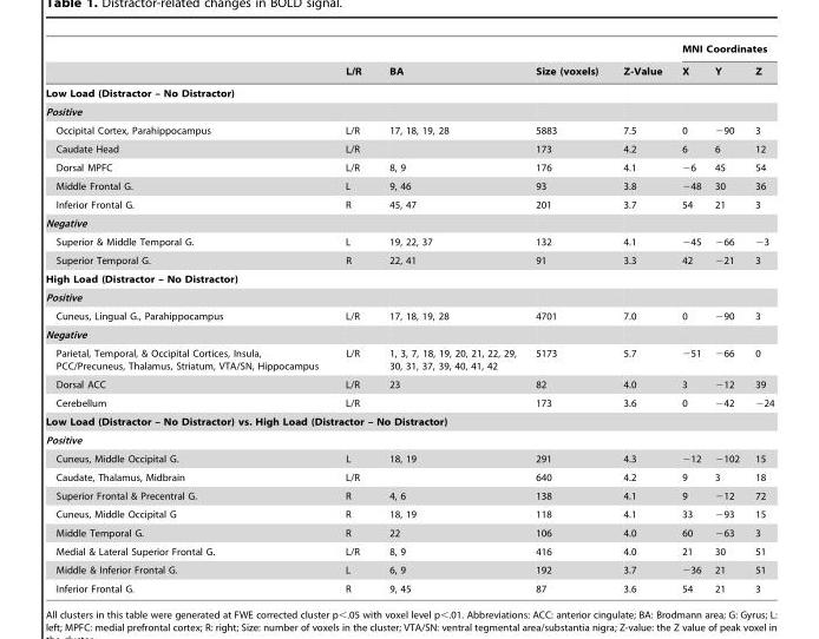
<table><thead><tr><td rowspan="2"></td><td rowspan="2">L/R</td><td rowspan="2">BA</td><td rowspan="2">Size (voxels)</td><td rowspan="2">Z-Value</td><td colspan="3">MNI Coordinates</td></tr><tr><td>X</td><td>Y</td><td>Z</td></tr></thead><tbody><tr><td colspan="8">Low Load (Distractor – No Distractor)</td></tr><tr><td colspan="8">Positive</td></tr><tr><td>Occipital Cortex, Parahippocampus</td><td>L/R</td><td>17, 18, 19, 28</td><td>5883</td><td>7.5</td><td>0</td><td>−90</td><td>3</td></tr><tr><td>Caudate Head</td><td>L/R</td><td></td><td>173</td><td>4.2</td><td>6</td><td>6</td><td>12</td></tr><tr><td>Dorsal MPFC</td><td>L/R</td><td>8, 9</td><td>176</td><td>4.1</td><td>−6</td><td>45</td><td>54</td></tr><tr><td>Middle Frontal G.</td><td>L</td><td>9, 46</td><td>93</td><td>3.8</td><td>−48</td><td>30</td><td>36</td></tr><tr><td>Inferior Frontal G.</td><td>R</td><td>45, 47</td><td>201</td><td>3.7</td><td>54</td><td>21</td><td>3</td></tr><tr><td colspan="8">Negative</td></tr><tr><td>Superior &amp; Middle Temporal G.</td><td>L</td><td>19, 22, 37</td><td>132</td><td>4.1</td><td>−45</td><td>−66</td><td>−3</td></tr><tr><td>Superior Temporal G.</td><td>R</td><td>22, 41</td><td>91</td><td>3.3</td><td>42</td><td>−21</td><td>3</td></tr><tr><td colspan="8">High Load (Distractor – No Distractor)</td></tr><tr><td colspan="8">Positive</td></tr><tr><td>Cuneus, Lingual G., Parahippocampus</td><td>L/R</td><td>17, 18, 19, 28</td><td>4701</td><td>7.0</td><td>0</td><td>−90</td><td>3</td></tr><tr><td colspan="8">Negative</td></tr><tr><td>Parietal, Temporal, &amp; Occipital Cortices, Insula, PCC/Precuneus, Thalamus, Striatum, VTA/SN, Hippocampus</td><td>L/R</td><td>1, 3, 7, 18, 19, 20, 21, 22, 29, 30, 31, 37, 39, 40, 41, 42</td><td>5173</td><td>5.7</td><td>−51</td><td>−66</td><td>0</td></tr><tr><td>Dorsal ACC</td><td>L/R</td><td>23</td><td>82</td><td>4.0</td><td>3</td><td>−12</td><td>39</td></tr><tr><td>Cerebellum</td><td>L/R</td><td></td><td>173</td><td>3.6</td><td>0</td><td>−42</td><td>−24</td></tr><tr><td colspan="8">Low Load (Distractor – No Distractor) vs. High Load (Distractor – No Distractor)</td></tr><tr><td colspan="8">Positive</td></tr><tr><td>Cuneus, Middle Occipital G.</td><td>L</td><td>18, 19</td><td>291</td><td>4.3</td><td>−12</td><td>−102</td><td>15</td></tr><tr><td>Caudate, Thalamus, Midbrain</td><td>L/R</td><td></td><td>640</td><td>4.2</td><td>9</td><td>3</td><td>18</td></tr><tr><td>Superior Frontal &amp; Precentral G.</td><td>R</td><td>4, 6</td><td>138</td><td>4.1</td><td>9</td><td>−12</td><td>72</td></tr><tr><td>Cuneus, Middle Occipital G</td><td>R</td><td>18, 19</td><td>118</td><td>4.1</td><td>33</td><td>−93</td><td>15</td></tr><tr><td>Middle Temporal G.</td><td>R</td><td>22</td><td>106</td><td>4.0</td><td>60</td><td>−63</td><td>3</td></tr><tr><td>Medial &amp; Lateral Superior Frontal G.</td><td>L/R</td><td>8, 9</td><td>416</td><td>4.0</td><td>21</td><td>30</td><td>51</td></tr><tr><td>Middle &amp; Inferior Frontal G.</td><td>L</td><td>6, 9</td><td>192</td><td>3.7</td><td>−36</td><td>21</td><td>51</td></tr><tr><td>Inferior Frontal G.</td><td>R</td><td>9, 45</td><td>87</td><td>3.6</td><td>54</td><td>21</td><td>3</td></tr></tbody></table>